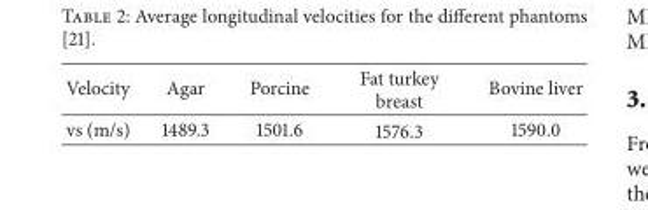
<table><thead><tr><td>Velocity</td><td>Agar</td><td>Porcine</td><td>Fat turkey breast</td><td>Bovine liver</td></tr></thead><tbody><tr><td>vs (m/s)</td><td>1489.3</td><td>1501.6</td><td>1576.3</td><td>1590.0</td></tr></tbody></table>